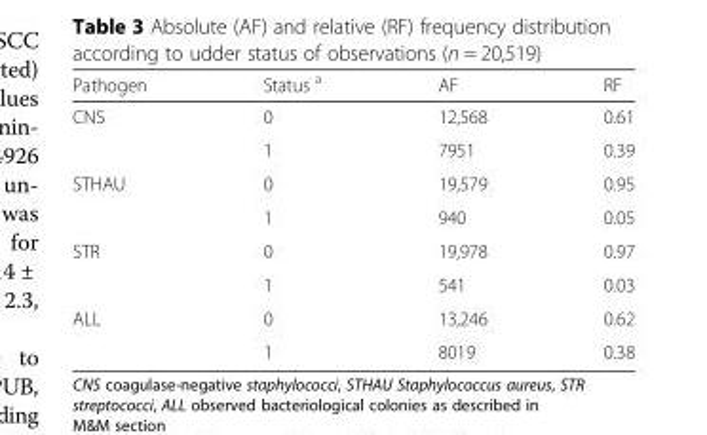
<table><thead><tr><td>Pathogen</td><td>Status <sup>a</sup></td><td>AF</td><td>RF</td></tr></thead><tbody><tr><td rowspan="2">CNS</td><td>0</td><td>12,568</td><td>0.61</td></tr><tr><td>1</td><td>7951</td><td>0.39</td></tr><tr><td rowspan="2">STHAU</td><td>0</td><td>19,579</td><td>0.95</td></tr><tr><td>1</td><td>940</td><td>0.05</td></tr><tr><td rowspan="2">STR</td><td>0</td><td>19,978</td><td>0.97</td></tr><tr><td>1</td><td>541</td><td>0.03</td></tr><tr><td rowspan="2">ALL</td><td>0</td><td>13,246</td><td>0.62</td></tr><tr><td>1</td><td>8019</td><td>0.38</td></tr></tbody></table>